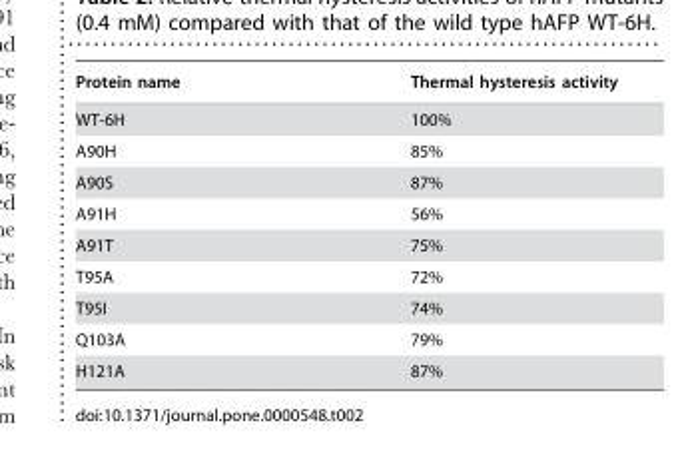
<table><thead><tr><td>Protein name</td><td>Thermal hysteresis activity</td></tr></thead><tbody><tr><td>WT-6H</td><td>100%</td></tr><tr><td>A90H</td><td>85%</td></tr><tr><td>A90S</td><td>87%</td></tr><tr><td>A91H</td><td>56%</td></tr><tr><td>A91T</td><td>75%</td></tr><tr><td>T95A</td><td>72%</td></tr><tr><td>T95I</td><td>74%</td></tr><tr><td>Q103A</td><td>79%</td></tr><tr><td>H121A</td><td>87%</td></tr></tbody></table>